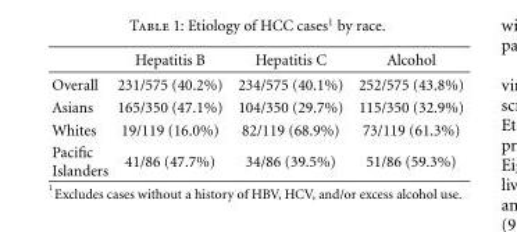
<table><thead><tr><td></td><td>Hepatitis B</td><td>Hepatitis C</td><td>Alcohol</td></tr></thead><tbody><tr><td>Overall</td><td>231/575 (40.2%)</td><td>234/575 (40.1%)</td><td>252/575 (43.8%)</td></tr><tr><td>Asians</td><td>165/350 (47.1%)</td><td>104/350 (29.7%)</td><td>115/350 (32.9%)</td></tr><tr><td>Whites</td><td>19/119 (16.0%)</td><td>82/119 (68.9%)</td><td>73/119 (61.3%)</td></tr><tr><td>Pacific Islanders</td><td>41/86 (47.7%)</td><td>34/86 (39.5%)</td><td>51/86 (59.3%)</td></tr></tbody></table>